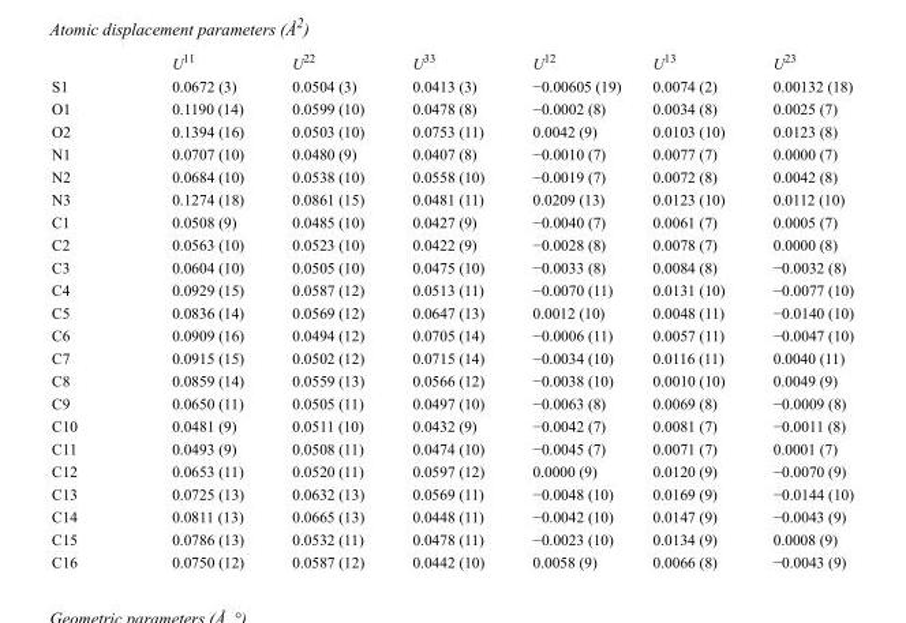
<table><thead><tr><td></td><td>U<sup>11</sup></td><td>U<sup>22</sup></td><td>U<sup>33</sup></td><td>U<sup>12</sup></td><td>U<sup>13</sup></td><td>U<sup>23</sup></td></tr></thead><tbody><tr><td>S1</td><td>0.0672 (3)</td><td>0.0504 (3)</td><td>0.0413 (3)</td><td>−0.00605 (19)</td><td>0.0074 (2)</td><td>0.00132 (18)</td></tr><tr><td>O1</td><td>0.1190 (14)</td><td>0.0599 (10)</td><td>0.0478 (8)</td><td>−0.0002 (8)</td><td>0.0034 (8)</td><td>0.0025 (7)</td></tr><tr><td>O2</td><td>0.1394 (16)</td><td>0.0503 (10)</td><td>0.0753 (11)</td><td>0.0042 (9)</td><td>0.0103 (10)</td><td>0.0123 (8)</td></tr><tr><td>N1</td><td>0.0707 (10)</td><td>0.0480 (9)</td><td>0.0407 (8)</td><td>−0.0010 (7)</td><td>0.0077 (7)</td><td>0.0000 (7)</td></tr><tr><td>N2</td><td>0.0684 (10)</td><td>0.0538 (10)</td><td>0.0558 (10)</td><td>−0.0019 (7)</td><td>0.0072 (8)</td><td>0.0042 (8)</td></tr><tr><td>N3</td><td>0.1274 (18)</td><td>0.0861 (15)</td><td>0.0481 (11)</td><td>0.0209 (13)</td><td>0.0123 (10)</td><td>0.0112 (10)</td></tr><tr><td>C1</td><td>0.0508 (9)</td><td>0.0485 (10)</td><td>0.0427 (9)</td><td>−0.0040 (7)</td><td>0.0061 (7)</td><td>0.0005 (7)</td></tr><tr><td>C2</td><td>0.0563 (10)</td><td>0.0523 (10)</td><td>0.0422 (9)</td><td>−0.0028 (8)</td><td>0.0078 (7)</td><td>0.0000 (8)</td></tr><tr><td>C3</td><td>0.0604 (10)</td><td>0.0505 (10)</td><td>0.0475 (10)</td><td>−0.0033 (8)</td><td>0.0084 (8)</td><td>−0.0032 (8)</td></tr><tr><td>C4</td><td>0.0929 (15)</td><td>0.0587 (12)</td><td>0.0513 (11)</td><td>−0.0070 (11)</td><td>0.0131 (10)</td><td>−0.0077 (10)</td></tr><tr><td>C5</td><td>0.0836 (14)</td><td>0.0569 (12)</td><td>0.0647 (13)</td><td>0.0012 (10)</td><td>0.0048 (11)</td><td>−0.0140 (10)</td></tr><tr><td>C6</td><td>0.0909 (16)</td><td>0.0494 (12)</td><td>0.0705 (14)</td><td>−0.0006 (11)</td><td>0.0057 (11)</td><td>−0.0047 (10)</td></tr><tr><td>C7</td><td>0.0915 (15)</td><td>0.0502 (12)</td><td>0.0715 (14)</td><td>−0.0034 (10)</td><td>0.0116 (11)</td><td>0.0040 (11)</td></tr><tr><td>C8</td><td>0.0859 (14)</td><td>0.0559 (13)</td><td>0.0566 (12)</td><td>−0.0038 (10)</td><td>0.0010 (10)</td><td>0.0049 (9)</td></tr><tr><td>C9</td><td>0.0650 (11)</td><td>0.0505 (11)</td><td>0.0497 (10)</td><td>−0.0063 (8)</td><td>0.0069 (8)</td><td>−0.0009 (8)</td></tr><tr><td>C10</td><td>0.0481 (9)</td><td>0.0511 (10)</td><td>0.0432 (9)</td><td>−0.0042 (7)</td><td>0.0081 (7)</td><td>−0.0011 (8)</td></tr><tr><td>C11</td><td>0.0493 (9)</td><td>0.0508 (11)</td><td>0.0474 (10)</td><td>−0.0045 (7)</td><td>0.0071 (7)</td><td>0.0001 (7)</td></tr><tr><td>C12</td><td>0.0653 (11)</td><td>0.0520 (11)</td><td>0.0597 (12)</td><td>0.0000 (9)</td><td>0.0120 (9)</td><td>−0.0070 (9)</td></tr><tr><td>C13</td><td>0.0725 (13)</td><td>0.0632 (13)</td><td>0.0569 (11)</td><td>−0.0048 (10)</td><td>0.0169 (9)</td><td>−0.0144 (10)</td></tr><tr><td>C14</td><td>0.0811 (13)</td><td>0.0665 (13)</td><td>0.0448 (11)</td><td>−0.0042 (10)</td><td>0.0147 (9)</td><td>−0.0043 (9)</td></tr><tr><td>C15</td><td>0.0786 (13)</td><td>0.0532 (11)</td><td>0.0478 (11)</td><td>−0.0023 (10)</td><td>0.0134 (9)</td><td>0.0008 (9)</td></tr><tr><td>C16</td><td>0.0750 (12)</td><td>0.0587 (12)</td><td>0.0442 (10)</td><td>0.0058 (9)</td><td>0.0066 (8)</td><td>−0.0043 (9)</td></tr></tbody></table>